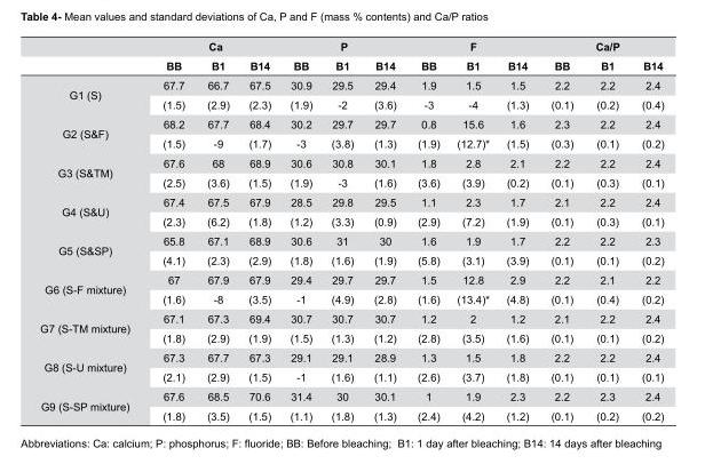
<table><thead><tr><td rowspan="2"></td><td rowspan="2">BB</td><td rowspan="2">Ca B1</td><td rowspan="2">B14</td><td rowspan="2">BB</td><td rowspan="2">P B1</td><td rowspan="2">B14</td><td rowspan="2">BB</td><td rowspan="2">F B1</td><td rowspan="2">B14</td><td rowspan="2">BB</td><td rowspan="2">Ca/P B1</td><td rowspan="2">B14</td></tr><tr></tr></thead><tbody><tr><td rowspan="2">G1 (S)</td><td>67.7</td><td>66.7</td><td>67.5</td><td>30.9</td><td>29.5</td><td>29.4</td><td>1.9</td><td>1.5</td><td>1.5</td><td>2.2</td><td>2.2</td><td>2.4</td></tr><tr><td>(1.5)</td><td>(2.9)</td><td>(2.3)</td><td>(1.9)</td><td>-2</td><td>(3.6)</td><td>-3</td><td>-4</td><td>(1.3)</td><td>(0.1)</td><td>(0.2)</td><td>(0.4)</td></tr><tr><td rowspan="2">G2 (S&amp;F)</td><td>68.2</td><td>67.7</td><td>68.4</td><td>30.2</td><td>29.7</td><td>29.7</td><td>0.8</td><td>15.6</td><td>1.6</td><td>2.3</td><td>2.2</td><td>2.4</td></tr><tr><td>(1.5)</td><td>-9</td><td>(1.7)</td><td>-3</td><td>(3.8)</td><td>(1.3)</td><td>(1.9)</td><td>(12.7)*</td><td>(1.5)</td><td>(0.3)</td><td>(0.1)</td><td>(0.2)</td></tr><tr><td rowspan="2">G3 (S&amp;TM)</td><td>67.6</td><td>68</td><td>68.9</td><td>30.6</td><td>30.8</td><td>30.1</td><td>1.8</td><td>2.8</td><td>2.1</td><td>2.2</td><td>2.2</td><td>2.4</td></tr><tr><td>(2.5)</td><td>(3.6)</td><td>(1.5)</td><td>(1.9)</td><td>-3</td><td>(1.6)</td><td>(3.6)</td><td>(3.9)</td><td>(0.2)</td><td>(0.1)</td><td>(0.3)</td><td>(0.1)</td></tr><tr><td rowspan="2">G4 (S&amp;U)</td><td>67.4</td><td>67.5</td><td>67.9</td><td>28.5</td><td>29.8</td><td>29.5</td><td>1.1</td><td>2.3</td><td>1.7</td><td>2.1</td><td>2.2</td><td>2.4</td></tr><tr><td>(2.3)</td><td>(6.2)</td><td>(1.8)</td><td>(1.2)</td><td>(3.3)</td><td>(0.9)</td><td>(2.9)</td><td>(7.2)</td><td>(1.9)</td><td>(0.1)</td><td>(0.3)</td><td>(0.1)</td></tr><tr><td rowspan="2">G5 (S&amp;SP)</td><td>65.8</td><td>67.1</td><td>68.9</td><td>30.6</td><td>31</td><td>30</td><td>1.6</td><td>1.9</td><td>1.7</td><td>2.2</td><td>2.2</td><td>2.3</td></tr><tr><td>(4.1)</td><td>(2.3)</td><td>(2.9)</td><td>(1.8)</td><td>(1.6)</td><td>(1.9)</td><td>(5.8)</td><td>(3.1)</td><td>(3.9)</td><td>(0.1)</td><td>(0.1)</td><td>(0.2)</td></tr><tr><td rowspan="2">G6 (S-F mixture)</td><td>67</td><td>67.9</td><td>67.9</td><td>29.4</td><td>29.7</td><td>29.7</td><td>1.5</td><td>12.8</td><td>2.9</td><td>2.2</td><td>2.1</td><td>2.2</td></tr><tr><td>(1.6)</td><td>-8</td><td>(3.5)</td><td>-1</td><td>(4.9)</td><td>(2.8)</td><td>(1.6)</td><td>(13.4)*</td><td>(4.8)</td><td>(0.1)</td><td>(0.4)</td><td>(0.2)</td></tr><tr><td rowspan="2">G7 (S-TM mixture)</td><td>67.1</td><td>67.3</td><td>69.4</td><td>30.7</td><td>30.7</td><td>30.7</td><td>1.2</td><td>2</td><td>1.2</td><td>2.1</td><td>2.2</td><td>2.4</td></tr><tr><td>(1.8)</td><td>(2.9)</td><td>(1.9)</td><td>(1.5)</td><td>(1.3)</td><td>(1.2)</td><td>(2.8)</td><td>(3.5)</td><td>(1.6)</td><td>(0.1)</td><td>(0.1)</td><td>(0.2)</td></tr><tr><td rowspan="2">G8 (S-U mixture)</td><td>67.3</td><td>67.7</td><td>67.3</td><td>29.1</td><td>29.1</td><td>28.9</td><td>1.3</td><td>1.5</td><td>1.8</td><td>2.2</td><td>2.2</td><td>2.4</td></tr><tr><td>(2.1)</td><td>(2.9)</td><td>(1.5)</td><td>-1</td><td>(1.6)</td><td>(1.1)</td><td>(2.6)</td><td>(3.7)</td><td>(1.8)</td><td>(0.1)</td><td>(0.1)</td><td>(0.1)</td></tr><tr><td rowspan="2">G9 (S-SP mixture)</td><td>67.6</td><td>68.5</td><td>70.6</td><td>31.4</td><td>30</td><td>30.1</td><td>1</td><td>1.9</td><td>2.3</td><td>2.2</td><td>2.3</td><td>2.4</td></tr><tr><td>(1.8)</td><td>(3.5)</td><td>(1.5)</td><td>(1.1)</td><td>(1.8)</td><td>(1.3)</td><td>(2.4)</td><td>(4.2)</td><td>(1.2)</td><td>(0.1)</td><td>(0.2)</td><td>(0.2)</td></tr></tbody></table>